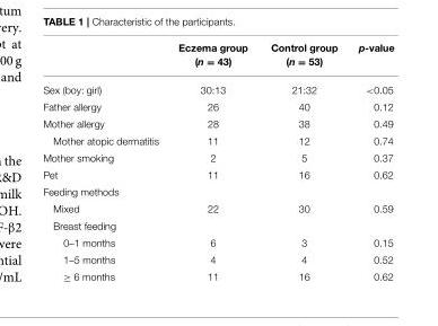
<table><thead><tr><td></td><td>Eczema group (n = 43)</td><td>Control group (n = 53)</td><td>p-value</td></tr></thead><tbody><tr><td>Sex (boy: girl)</td><td>30:13</td><td>21:32</td><td>&lt;0.05</td></tr><tr><td>Father allergy</td><td>26</td><td>40</td><td>0.12</td></tr><tr><td>Mother allergy</td><td>28</td><td>38</td><td>0.49</td></tr><tr><td>Mother atopic dermatitis</td><td>11</td><td>12</td><td>0.74</td></tr><tr><td>Mother smoking</td><td>2</td><td>5</td><td>0.37</td></tr><tr><td>Pet</td><td>11</td><td>16</td><td>0.62</td></tr><tr><td colspan="4">Feeding methods</td></tr><tr><td>Mixed</td><td>22</td><td>30</td><td>0.59</td></tr><tr><td colspan="4">Breast feeding</td></tr><tr><td>0–1 months</td><td>6</td><td>3</td><td>0.15</td></tr><tr><td>1–5 months</td><td>4</td><td>4</td><td>0.52</td></tr><tr><td>≥ 6 months</td><td>11</td><td>16</td><td>0.62</td></tr></tbody></table>